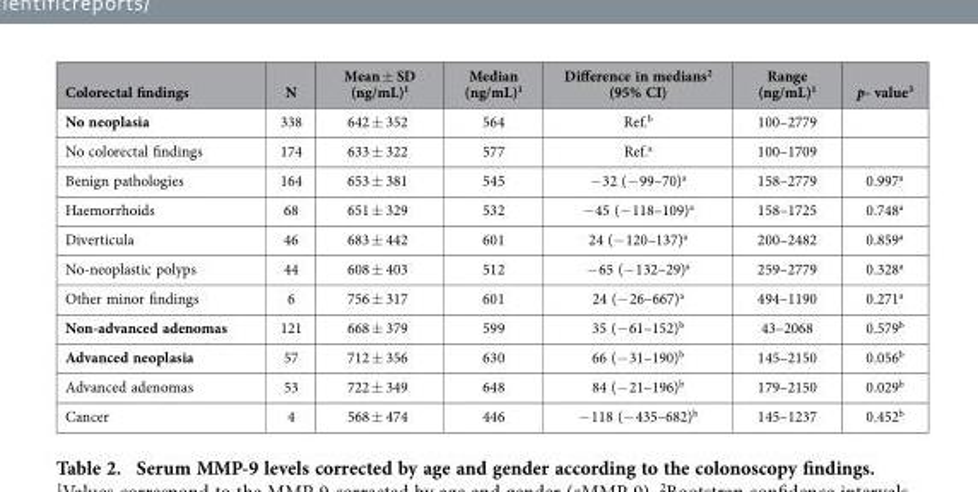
<table><thead><tr><td>Colorectal findings</td><td>N</td><td>Mean ± SD (ng/mL)<sup>1</sup></td><td>Median (ng/mL)<sup>1</sup></td><td>Difference in medians<sup>2</sup> (95% CI)</td><td>Range (ng/mL)<sup>1</sup></td><td>p- value<sup>3</sup></td></tr></thead><tbody><tr><td>No neoplasia</td><td>338</td><td>642 ± 352</td><td>564</td><td>Ref.<sup>b</sup></td><td>100–2779</td><td></td></tr><tr><td>No colorectal findings</td><td>174</td><td>633 ± 322</td><td>577</td><td>Ref.<sup>a</sup></td><td>100–1709</td><td></td></tr><tr><td>Benign pathologies</td><td>164</td><td>653 ± 381</td><td>545</td><td>− 32 (− 99–70)<sup>a</sup></td><td>158–2779</td><td>0.997<sup>a</sup></td></tr><tr><td>Haemorrhoids</td><td>68</td><td>651 ± 329</td><td>532</td><td>− 45 (− 118–109)<sup>a</sup></td><td>158–1725</td><td>0.748<sup>a</sup></td></tr><tr><td>Diverticula</td><td>46</td><td>683 ± 442</td><td>601</td><td>24 (− 120–137)<sup>a</sup></td><td>200–2482</td><td>0.859<sup>a</sup></td></tr><tr><td>No-neoplastic polyps</td><td>44</td><td>608 ± 403</td><td>512</td><td>− 65 (− 132–29)<sup>a</sup></td><td>259–2779</td><td>0.328<sup>a</sup></td></tr><tr><td>Other minor findings</td><td>6</td><td>756 ± 317</td><td>601</td><td>24 (− 26–667)<sup>a</sup></td><td>494–1190</td><td>0.271<sup>a</sup></td></tr><tr><td>Non-advanced adenomas</td><td>121</td><td>668 ± 379</td><td>599</td><td>35 (− 61–152)<sup>b</sup></td><td>43–2068</td><td>0.579<sup>b</sup></td></tr><tr><td>Advanced neoplasia</td><td>57</td><td>712 ± 356</td><td>630</td><td>66 (− 31–190)<sup>b</sup></td><td>145–2150</td><td>0.056<sup>b</sup></td></tr><tr><td>Advanced adenomas</td><td>53</td><td>722 ± 349</td><td>648</td><td>84 (− 21–196)<sup>b</sup></td><td>179–2150</td><td>0.029<sup>b</sup></td></tr><tr><td>Cancer</td><td>4</td><td>568 ± 474</td><td>446</td><td>− 118 (− 435–682)<sup>b</sup></td><td>145–1237</td><td>0.452<sup>b</sup></td></tr></tbody></table>